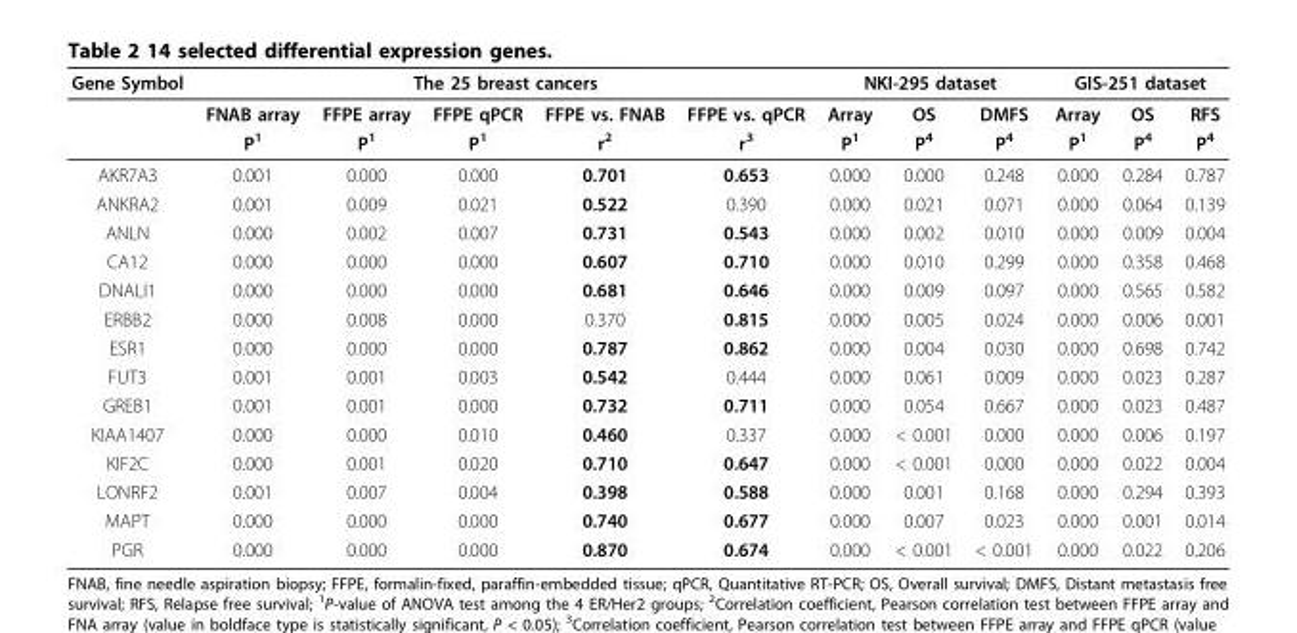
<table><thead><tr><td rowspan="2">Gene Symbol</td><td colspan="5">The 25 breast cancers</td><td colspan="3">NKI-295 dataset</td><td colspan="3">GIS-251 dataset</td></tr><tr><td>FNAB array</td><td>FFPE array</td><td>FFPE qPCR</td><td>FFPE vs. FNAB</td><td>FFPE vs. qPCR</td><td>Array</td><td>OS</td><td>DMFS</td><td>Array</td><td>OS</td><td>RFS</td></tr></thead><tbody><tr><td></td><td>P<sup>1</sup></td><td>P<sup>1</sup></td><td>P<sup>1</sup></td><td>r<sup>2</sup></td><td>r<sup>3</sup></td><td>P<sup>1</sup></td><td>P<sup>4</sup></td><td>P<sup>4</sup></td><td>P<sup>1</sup></td><td>P<sup>4</sup></td><td>P<sup>4</sup></td></tr><tr><td>AKR7A3</td><td>0.001</td><td>0.000</td><td>0.000</td><td>0.701</td><td>0.653</td><td>0.000</td><td>0.000</td><td>0.248</td><td>0.000</td><td>0.284</td><td>0.787</td></tr><tr><td>ANKRA2</td><td>0.001</td><td>0.009</td><td>0.021</td><td>0.522</td><td>0.390</td><td>0.000</td><td>0.021</td><td>0.071</td><td>0.000</td><td>0.064</td><td>0.139</td></tr><tr><td>ANLN</td><td>0.000</td><td>0.002</td><td>0.007</td><td>0.731</td><td>0.543</td><td>0.000</td><td>0.002</td><td>0.010</td><td>0.000</td><td>0.009</td><td>0.004</td></tr><tr><td>CA12</td><td>0.000</td><td>0.000</td><td>0.000</td><td>0.607</td><td>0.710</td><td>0.000</td><td>0.010</td><td>0.299</td><td>0.000</td><td>0.358</td><td>0.468</td></tr><tr><td>DNALI1</td><td>0.000</td><td>0.000</td><td>0.000</td><td>0.681</td><td>0.646</td><td>0.000</td><td>0.009</td><td>0.097</td><td>0.000</td><td>0.565</td><td>0.582</td></tr><tr><td>ERBB2</td><td>0.000</td><td>0.008</td><td>0.000</td><td>0.370</td><td>0.815</td><td>0.000</td><td>0.005</td><td>0.024</td><td>0.000</td><td>0.006</td><td>0.001</td></tr><tr><td>ESR1</td><td>0.000</td><td>0.000</td><td>0.000</td><td>0.787</td><td>0.862</td><td>0.000</td><td>0.004</td><td>0.030</td><td>0.000</td><td>0.698</td><td>0.742</td></tr><tr><td>FUT3</td><td>0.001</td><td>0.001</td><td>0.003</td><td>0.542</td><td>0.444</td><td>0.000</td><td>0.061</td><td>0.009</td><td>0.000</td><td>0.023</td><td>0.287</td></tr><tr><td>GREB1</td><td>0.001</td><td>0.001</td><td>0.000</td><td>0.732</td><td>0.711</td><td>0.000</td><td>0.054</td><td>0.667</td><td>0.000</td><td>0.023</td><td>0.487</td></tr><tr><td>KIAA1407</td><td>0.000</td><td>0.000</td><td>0.010</td><td>0.460</td><td>0.337</td><td>0.000</td><td>&lt; 0.001</td><td>0.000</td><td>0.000</td><td>0.006</td><td>0.197</td></tr><tr><td>KIF2C</td><td>0.000</td><td>0.001</td><td>0.020</td><td>0.710</td><td>0.647</td><td>0.000</td><td>&lt; 0.001</td><td>0.000</td><td>0.000</td><td>0.022</td><td>0.004</td></tr><tr><td>LONRF2</td><td>0.001</td><td>0.007</td><td>0.004</td><td>0.398</td><td>0.588</td><td>0.000</td><td>0.001</td><td>0.168</td><td>0.000</td><td>0.294</td><td>0.393</td></tr><tr><td>MAPT</td><td>0.000</td><td>0.000</td><td>0.000</td><td>0.740</td><td>0.677</td><td>0.000</td><td>0.007</td><td>0.023</td><td>0.000</td><td>0.001</td><td>0.014</td></tr><tr><td>PGR</td><td>0.000</td><td>0.000</td><td>0.000</td><td>0.870</td><td>0.674</td><td>0.000</td><td>&lt; 0.001</td><td>&lt; 0.001</td><td>0.000</td><td>0.022</td><td>0.206</td></tr></tbody></table>